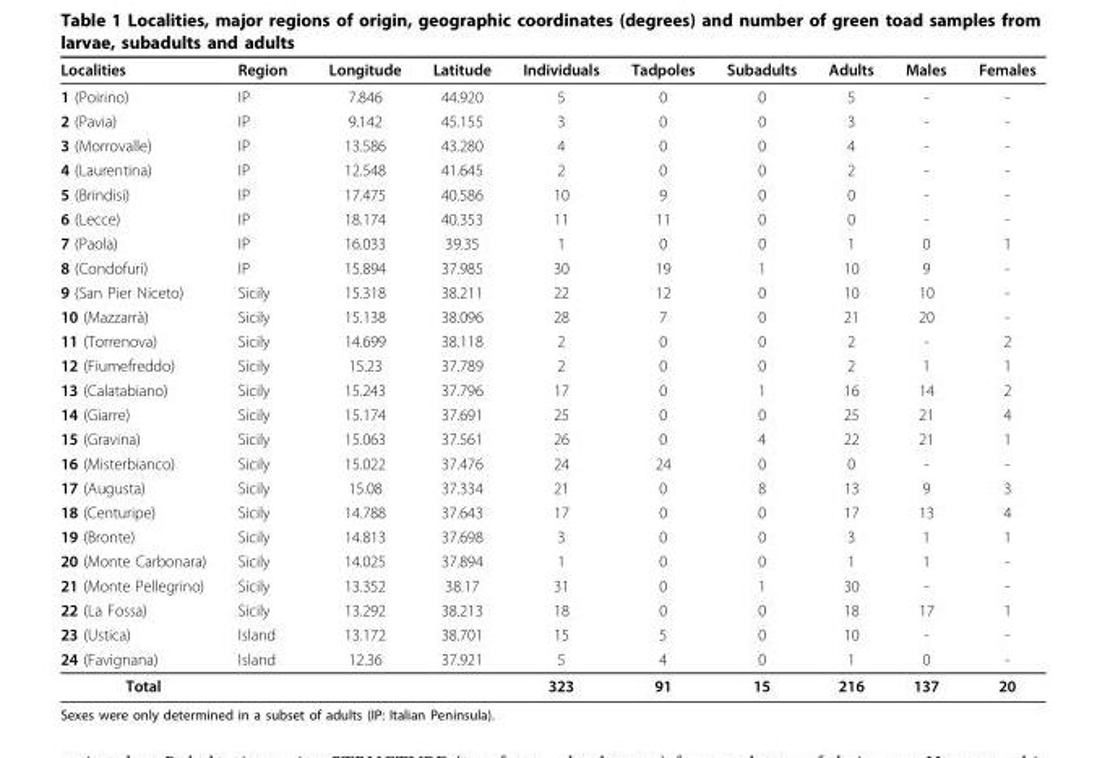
<table><thead><tr><td>Localities</td><td>Region</td><td>Longitude</td><td>Latitude</td><td>Individuals</td><td>Tadpoles</td><td>Subadults</td><td>Adults</td><td>Males</td><td>Females</td></tr></thead><tbody><tr><td>1 (Poirino)</td><td>IP</td><td>7.846</td><td>44.920</td><td>5</td><td>0</td><td>0</td><td>5</td><td>-</td><td>-</td></tr><tr><td>2 (Pavia)</td><td>IP</td><td>9.142</td><td>45.155</td><td>3</td><td>0</td><td>0</td><td>3</td><td>-</td><td>-</td></tr><tr><td>3 (Morrovalle)</td><td>IP</td><td>13.586</td><td>43.280</td><td>4</td><td>0</td><td>0</td><td>4</td><td>-</td><td>-</td></tr><tr><td>4 (Laurentina)</td><td>IP</td><td>12.548</td><td>41.645</td><td>2</td><td>0</td><td>0</td><td>2</td><td>-</td><td>-</td></tr><tr><td>5 (Brindisi)</td><td>IP</td><td>17.475</td><td>40.586</td><td>10</td><td>9</td><td>0</td><td>0</td><td>-</td><td>-</td></tr><tr><td>6 (Lecce)</td><td>IP</td><td>18.174</td><td>40.353</td><td>11</td><td>11</td><td>0</td><td>0</td><td>-</td><td>-</td></tr><tr><td>7 (Paola)</td><td>IP</td><td>16.033</td><td>39.35</td><td>1</td><td>0</td><td>0</td><td>1</td><td>0</td><td>1</td></tr><tr><td>8 (Condofuri)</td><td>IP</td><td>15.894</td><td>37.985</td><td>30</td><td>19</td><td>1</td><td>10</td><td>9</td><td>-</td></tr><tr><td>9 (San Pier Niceto)</td><td>Sicily</td><td>15.318</td><td>38.211</td><td>22</td><td>12</td><td>0</td><td>10</td><td>10</td><td>-</td></tr><tr><td>10 (Mazzarrà)</td><td>Sicily</td><td>15.138</td><td>38.096</td><td>28</td><td>7</td><td>0</td><td>21</td><td>20</td><td>-</td></tr><tr><td>11 (Torrenova)</td><td>Sicily</td><td>14.699</td><td>38.118</td><td>2</td><td>0</td><td>0</td><td>2</td><td>-</td><td>2</td></tr><tr><td>12 (Fiumefreddo)</td><td>Sicily</td><td>15.23</td><td>37.789</td><td>2</td><td>0</td><td>0</td><td>2</td><td>1</td><td>1</td></tr><tr><td>13 (Calatabiano)</td><td>Sicily</td><td>15.243</td><td>37.796</td><td>17</td><td>0</td><td>1</td><td>16</td><td>14</td><td>2</td></tr><tr><td>14 (Giarre)</td><td>Sicily</td><td>15.174</td><td>37.691</td><td>25</td><td>0</td><td>0</td><td>25</td><td>21</td><td>4</td></tr><tr><td>15 (Gravina)</td><td>Sicily</td><td>15.063</td><td>37.561</td><td>26</td><td>0</td><td>4</td><td>22</td><td>21</td><td>1</td></tr><tr><td>16 (Misterbianco)</td><td>Sicily</td><td>15.022</td><td>37.476</td><td>24</td><td>24</td><td>0</td><td>0</td><td>-</td><td>-</td></tr><tr><td>17 (Augusta)</td><td>Sicily</td><td>15.08</td><td>37.334</td><td>21</td><td>0</td><td>8</td><td>13</td><td>9</td><td>3</td></tr><tr><td>18 (Centuripe)</td><td>Sicily</td><td>14.788</td><td>37.643</td><td>17</td><td>0</td><td>0</td><td>17</td><td>13</td><td>4</td></tr><tr><td>19 (Bronte)</td><td>Sicily</td><td>14.813</td><td>37.698</td><td>3</td><td>0</td><td>0</td><td>3</td><td>1</td><td>1</td></tr><tr><td>20 (Monte Carbonara)</td><td>Sicily</td><td>14.025</td><td>37.894</td><td>1</td><td>0</td><td>0</td><td>1</td><td>1</td><td>-</td></tr><tr><td>21 (Monte Pellegrino)</td><td>Sicily</td><td>13.352</td><td>38.17</td><td>31</td><td>0</td><td>1</td><td>30</td><td>-</td><td>-</td></tr><tr><td>22 (La Fossa)</td><td>Sicily</td><td>13.292</td><td>38.213</td><td>18</td><td>0</td><td>0</td><td>18</td><td>17</td><td>1</td></tr><tr><td>23 (Ustica)</td><td>Island</td><td>13.172</td><td>38.701</td><td>15</td><td>5</td><td>0</td><td>10</td><td>-</td><td>-</td></tr><tr><td>24 (Favignana)</td><td>Island</td><td>12.36</td><td>37.921</td><td>5</td><td>4</td><td>0</td><td>1</td><td>0</td><td>-</td></tr><tr><td>Total</td><td></td><td></td><td></td><td>323</td><td>91</td><td>15</td><td>216</td><td>137</td><td>20</td></tr></tbody></table>